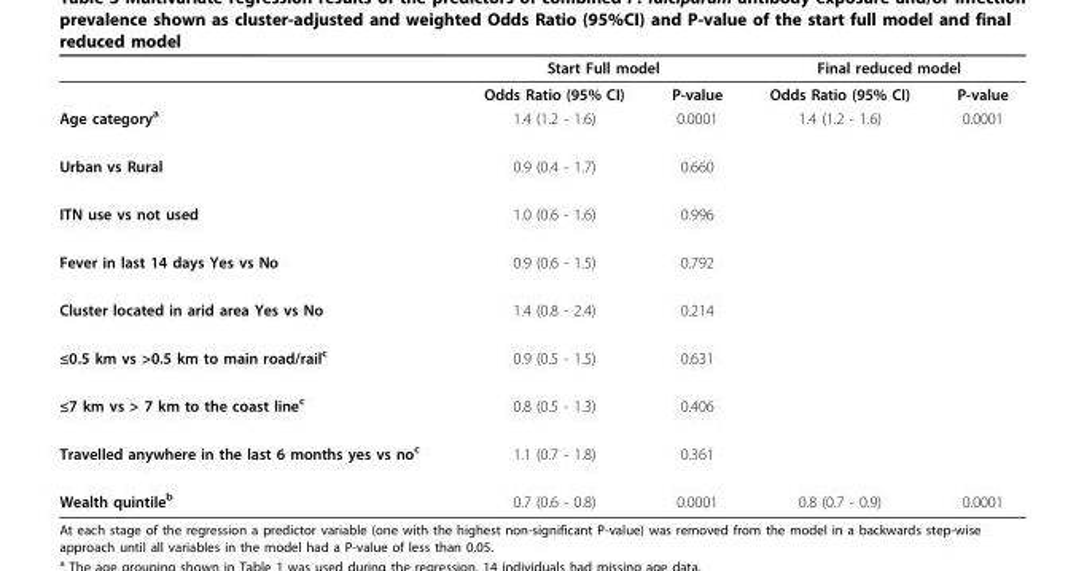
<table><thead><tr><td rowspan="2"></td><td colspan="2">Start Full model</td><td colspan="2">Final reduced model</td></tr><tr><td>Odds Ratio (95% CI)</td><td>P-value</td><td>Odds Ratio (95% CI)</td><td>P-value</td></tr></thead><tbody><tr><td>Age category<sup>a</sup></td><td>1.4 (1.2 - 1.6)</td><td>0.0001</td><td>1.4 (1.2 - 1.6)</td><td>0.0001</td></tr><tr><td>Urban vs Rural</td><td>0.9 (0.4 - 1.7)</td><td>0.660</td><td></td><td></td></tr><tr><td>ITN use vs not used</td><td>1.0 (0.6 - 1.6)</td><td>0.996</td><td></td><td></td></tr><tr><td>Fever in last 14 days Yes vs No</td><td>0.9 (0.6 - 1.5)</td><td>0.792</td><td></td><td></td></tr><tr><td>Cluster located in arid area Yes vs No</td><td>1.4 (0.8 - 2.4)</td><td>0.214</td><td></td><td></td></tr><tr><td>≤0.5 km vs &gt;0.5 km to main road/rail<sup>c</sup></td><td>0.9 (0.5 - 1.5)</td><td>0.631</td><td></td><td></td></tr><tr><td>≤7 km vs &gt; 7 km to the coast line<sup>c</sup></td><td>0.8 (0.5 - 1.3)</td><td>0.406</td><td></td><td></td></tr><tr><td>Travelled anywhere in the last 6 months yes vs no<sup>c</sup></td><td>1.1 (0.7 - 1.8)</td><td>0.361</td><td></td><td></td></tr><tr><td>Wealth quintile<sup>b</sup></td><td>0.7 (0.6 - 0.8)</td><td>0.0001</td><td>0.8 (0.7 - 0.9)</td><td>0.0001</td></tr></tbody></table>